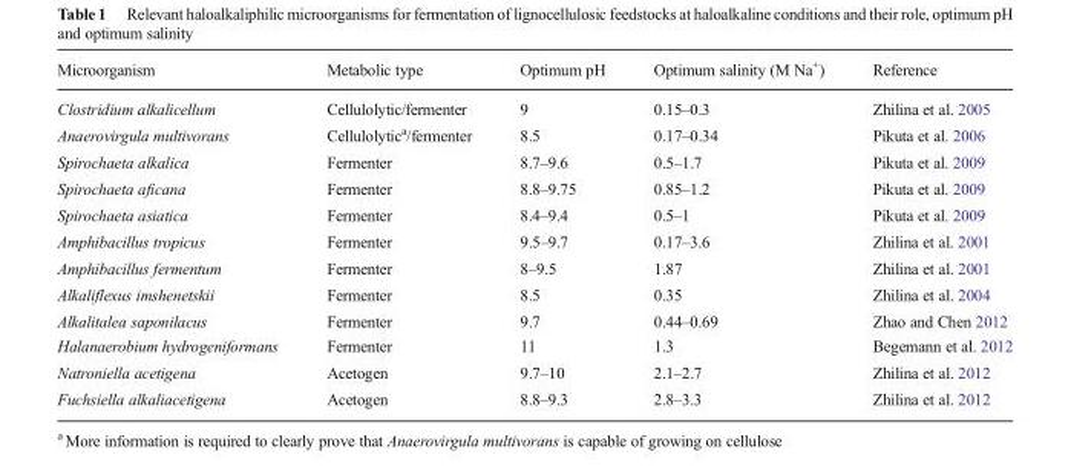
<table><thead><tr><td>Microorganism</td><td>Metabolic type</td><td>Optimum pH</td><td>Optimum salinity (M Na<sup>+</sup>)</td><td>Reference</td></tr></thead><tbody><tr><td>Clostridium alkalicellum</td><td>Cellulolytic/fermenter</td><td>9</td><td>0.15–0.3</td><td>Zhilina et al. 2005</td></tr><tr><td>Anaerovirgula multivorans</td><td>Cellulolytic<sup>a</sup>/fermenter</td><td>8.5</td><td>0.17–0.34</td><td>Pikuta et al. 2006</td></tr><tr><td>Spirochaeta alkalica</td><td>Fermenter</td><td>8.7–9.6</td><td>0.5–1.7</td><td>Pikuta et al. 2009</td></tr><tr><td>Spirochaeta aficana</td><td>Fermenter</td><td>8.8–9.75</td><td>0.85–1.2</td><td>Pikuta et al. 2009</td></tr><tr><td>Spirochaeta asiatica</td><td>Fermenter</td><td>8.4–9.4</td><td>0.5–1</td><td>Pikuta et al. 2009</td></tr><tr><td>Amphibacillus tropicus</td><td>Fermenter</td><td>9.5–9.7</td><td>0.17–3.6</td><td>Zhilina et al. 2001</td></tr><tr><td>Amphibacillus fermentum</td><td>Fermenter</td><td>8–9.5</td><td>1.87</td><td>Zhilina et al. 2001</td></tr><tr><td>Alkaliflexus imshenetskii</td><td>Fermenter</td><td>8.5</td><td>0.35</td><td>Zhilina et al. 2004</td></tr><tr><td>Alkalitalea saponilacus</td><td>Fermenter</td><td>9.7</td><td>0.44–0.69</td><td>Zhao and Chen 2012</td></tr><tr><td>Halanaerobium hydrogeniformans</td><td>Fermenter</td><td>11</td><td>1.3</td><td>Begemann et al. 2012</td></tr><tr><td>Natroniella acetigena</td><td>Acetogen</td><td>9.7–10</td><td>2.1–2.7</td><td>Zhilina et al. 2012</td></tr><tr><td>Fuchsiella alkaliacetigena</td><td>Acetogen</td><td>8.8–9.3</td><td>2.8–3.3</td><td>Zhilina et al. 2012</td></tr></tbody></table>